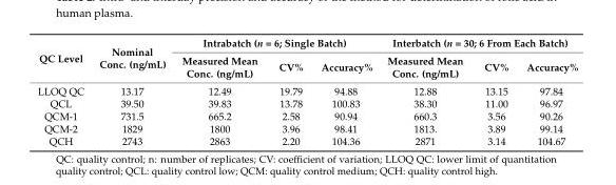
<table><thead><tr><td rowspan="2">QC Level</td><td rowspan="2">Nominal Conc. (ng/mL)</td><td colspan="3">Intrabatch (n = 6; Single Batch)</td><td colspan="3">Interbatch (n = 30; 6 From Each Batch)</td></tr><tr><td>Measured Mean Conc. (ng/mL)</td><td>CV%</td><td>Accuracy%</td><td>Measured Mean Conc. (ng/mL)</td><td>CV%</td><td>Accuracy%</td></tr></thead><tbody><tr><td>LLOQ QC</td><td>13.17</td><td>12.49</td><td>19.79</td><td>94.88</td><td>12.88</td><td>13.15</td><td>97.84</td></tr><tr><td>QCL</td><td>39.50</td><td>39.83</td><td>13.78</td><td>100.83</td><td>38.30</td><td>11.00</td><td>96.97</td></tr><tr><td>QCM-1</td><td>731.5</td><td>665.2</td><td>2.58</td><td>90.94</td><td>660.3</td><td>3.56</td><td>90.26</td></tr><tr><td>QCM-2</td><td>1829</td><td>1800</td><td>3.96</td><td>98.41</td><td>1813.</td><td>3.89</td><td>99.14</td></tr><tr><td>QCH</td><td>2743</td><td>2863</td><td>2.20</td><td>104.36</td><td>2871</td><td>3.14</td><td>104.67</td></tr></tbody></table>